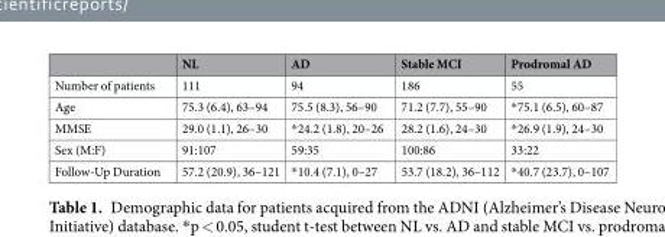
<table><thead><tr><td></td><td>NL</td><td>AD</td><td>Stable MCI</td><td>Prodromal AD</td></tr></thead><tbody><tr><td>Number of patients</td><td>111</td><td>94</td><td>186</td><td>55</td></tr><tr><td>Age</td><td>75.3 (6.4), 63–94</td><td>75.5 (8.3), 56–90</td><td>71.2 (7.7), 55–90</td><td>*75.1 (6.5), 60–87</td></tr><tr><td>MMSE</td><td>29.0 (1.1), 26–30</td><td>*24.2 (1.8), 20–26</td><td>28.2 (1.6), 24–30</td><td>*26.9 (1.9), 24–30</td></tr><tr><td>Sex (M:F)</td><td>91:107</td><td>59:35</td><td>100:86</td><td>33:22</td></tr><tr><td>Follow-Up Duration</td><td>57.2 (20.9), 36–121</td><td>*10.4 (7.1), 0–27</td><td>53.7 (18.2), 36–112</td><td>*40.7 (23.7), 0–107</td></tr></tbody></table>